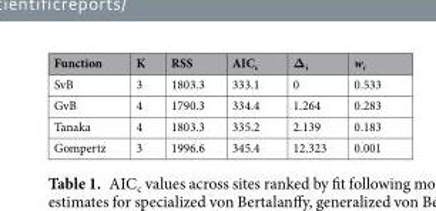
<table><thead><tr><td>Function</td><td>K</td><td>RSS</td><td>AIC<sub>c</sub></td><td>Δ<sub>i</sub></td><td>w<sub>i</sub></td></tr></thead><tbody><tr><td>SvB</td><td>3</td><td>1803.3</td><td>333.1</td><td>0</td><td>0.533</td></tr><tr><td>GvB</td><td>4</td><td>1790.3</td><td>334.4</td><td>1.264</td><td>0.283</td></tr><tr><td>Tanaka</td><td>4</td><td>1803.3</td><td>335.2</td><td>2.139</td><td>0.183</td></tr><tr><td>Gompertz</td><td>3</td><td>1996.6</td><td>345.4</td><td>12.323</td><td>0.001</td></tr></tbody></table>